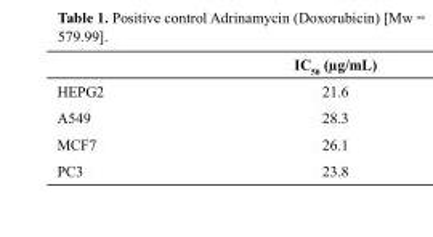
<table><thead><tr><td></td><td>IC<sub>50</sub> (µg/mL)</td></tr></thead><tbody><tr><td>HEPG2</td><td>21.6</td></tr><tr><td>A549</td><td>28.3</td></tr><tr><td>MCF7</td><td>26.1</td></tr><tr><td>PC3</td><td>23.8</td></tr></tbody></table>